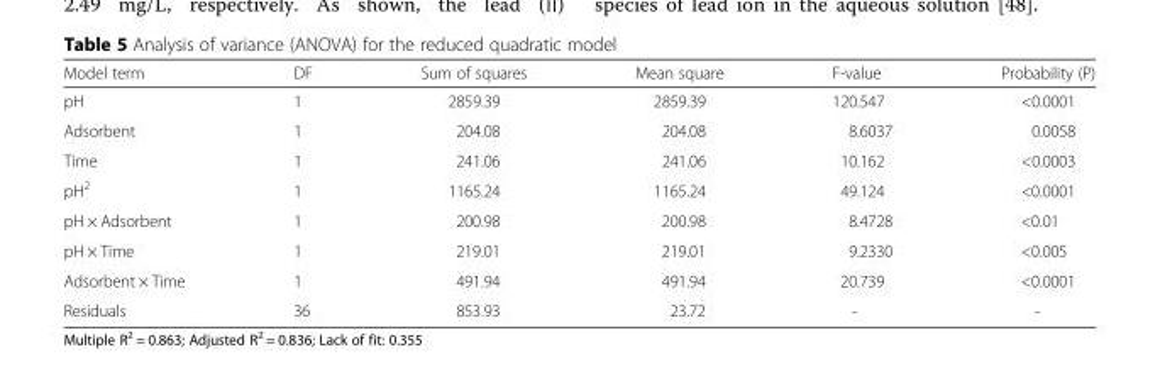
<table><thead><tr><td>Model term</td><td>DF</td><td>Sum of squares</td><td>Mean square</td><td>F-value</td><td>Probability (P)</td></tr></thead><tbody><tr><td>pH</td><td>1</td><td>2859.39</td><td>2859.39</td><td>120.547</td><td>&lt;0.0001</td></tr><tr><td>Adsorbent</td><td>1</td><td>204.08</td><td>204.08</td><td>8.6037</td><td>0.0058</td></tr><tr><td>Time</td><td>1</td><td>241.06</td><td>241.06</td><td>10.162</td><td>&lt;0.0003</td></tr><tr><td>pH<sup>2</sup></td><td>1</td><td>1165.24</td><td>1165.24</td><td>49.124</td><td>&lt;0.0001</td></tr><tr><td>pH × Adsorbent</td><td>1</td><td>200.98</td><td>200.98</td><td>8.4728</td><td>&lt;0.01</td></tr><tr><td>pH × Time</td><td>1</td><td>219.01</td><td>219.01</td><td>9.2330</td><td>&lt;0.005</td></tr><tr><td>Adsorbent × Time</td><td>1</td><td>491.94</td><td>491.94</td><td>20.739</td><td>&lt;0.0001</td></tr><tr><td>Residuals</td><td>36</td><td>853.93</td><td>23.72</td><td>-</td><td>-</td></tr></tbody></table>